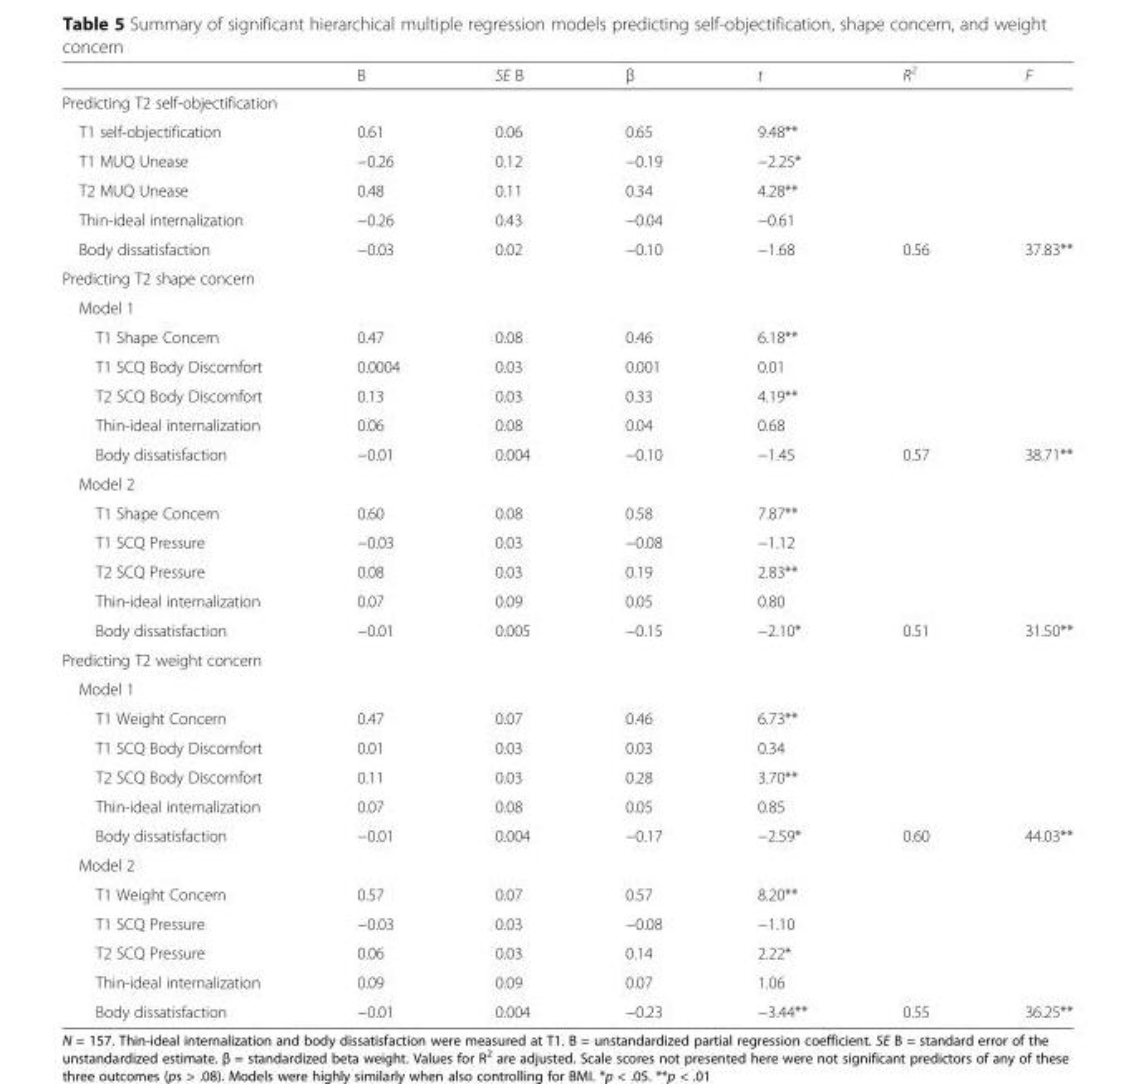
<table><thead><tr><td></td><td>B</td><td>SE B</td><td>β</td><td>t</td><td>R<sup>2</sup></td><td>F</td></tr></thead><tbody><tr><td colspan="7">Predicting T2 self-objectification</td></tr><tr><td>T1 self-objectification</td><td>0.61</td><td>0.06</td><td>0.65</td><td>9.48**</td><td></td><td></td></tr><tr><td>T1 MUQ Unease</td><td>−0.26</td><td>0.12</td><td>−0.19</td><td>−2.25*</td><td></td><td></td></tr><tr><td>T2 MUQ Unease</td><td>0.48</td><td>0.11</td><td>0.34</td><td>4.28**</td><td></td><td></td></tr><tr><td>Thin-ideal internalization</td><td>−0.26</td><td>0.43</td><td>−0.04</td><td>−0.61</td><td></td><td></td></tr><tr><td>Body dissatisfaction</td><td>−0.03</td><td>0.02</td><td>−0.10</td><td>−1.68</td><td>0.56</td><td>37.83**</td></tr><tr><td colspan="7">Predicting T2 shape concern</td></tr><tr><td colspan="7">Model 1</td></tr><tr><td>T1 Shape Concern</td><td>0.47</td><td>0.08</td><td>0.46</td><td>6.18**</td><td></td><td></td></tr><tr><td>T1 SCQ Body Discomfort</td><td>0.0004</td><td>0.03</td><td>0.001</td><td>0.01</td><td></td><td></td></tr><tr><td>T2 SCQ Body Discomfort</td><td>0.13</td><td>0.03</td><td>0.33</td><td>4.19**</td><td></td><td></td></tr><tr><td>Thin-ideal internalization</td><td>0.06</td><td>0.08</td><td>0.04</td><td>0.68</td><td></td><td></td></tr><tr><td>Body dissatisfaction</td><td>−0.01</td><td>0.004</td><td>−0.10</td><td>−1.45</td><td>0.57</td><td>38.71**</td></tr><tr><td colspan="7">Model 2</td></tr><tr><td>T1 Shape Concern</td><td>0.60</td><td>0.08</td><td>0.58</td><td>7.87**</td><td></td><td></td></tr><tr><td>T1 SCQ Pressure</td><td>−0.03</td><td>0.03</td><td>−0.08</td><td>−1.12</td><td></td><td></td></tr><tr><td>T2 SCQ Pressure</td><td>0.08</td><td>0.03</td><td>0.19</td><td>2.83**</td><td></td><td></td></tr><tr><td>Thin-ideal internalization</td><td>0.07</td><td>0.09</td><td>0.05</td><td>0.80</td><td></td><td></td></tr><tr><td>Body dissatisfaction</td><td>−0.01</td><td>0.005</td><td>−0.15</td><td>−2.10*</td><td>0.51</td><td>31.50**</td></tr><tr><td colspan="7">Predicting T2 weight concern</td></tr><tr><td colspan="7">Model 1</td></tr><tr><td>T1 Weight Concern</td><td>0.47</td><td>0.07</td><td>0.46</td><td>6.73**</td><td></td><td></td></tr><tr><td>T1 SCQ Body Discomfort</td><td>0.01</td><td>0.03</td><td>0.03</td><td>0.34</td><td></td><td></td></tr><tr><td>T2 SCQ Body Discomfort</td><td>0.11</td><td>0.03</td><td>0.28</td><td>3.70**</td><td></td><td></td></tr><tr><td>Thin-ideal internalization</td><td>0.07</td><td>0.08</td><td>0.05</td><td>0.85</td><td></td><td></td></tr><tr><td>Body dissatisfaction</td><td>−0.01</td><td>0.004</td><td>−0.17</td><td>−2.59*</td><td>0.60</td><td>44.03**</td></tr><tr><td colspan="7">Model 2</td></tr><tr><td>T1 Weight Concern</td><td>0.57</td><td>0.07</td><td>0.57</td><td>8.20**</td><td></td><td></td></tr><tr><td>T1 SCQ Pressure</td><td>−0.03</td><td>0.03</td><td>−0.08</td><td>−1.10</td><td></td><td></td></tr><tr><td>T2 SCQ Pressure</td><td>0.06</td><td>0.03</td><td>0.14</td><td>2.22*</td><td></td><td></td></tr><tr><td>Thin-ideal internalization</td><td>0.09</td><td>0.09</td><td>0.07</td><td>1.06</td><td></td><td></td></tr><tr><td>Body dissatisfaction</td><td>−0.01</td><td>0.004</td><td>−0.23</td><td>−3.44**</td><td>0.55</td><td>36.25**</td></tr></tbody></table>